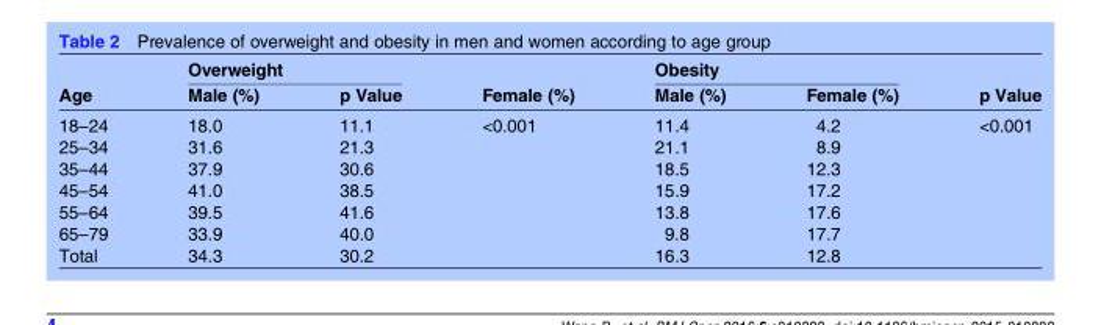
<table><thead><tr><td rowspan="2">Age</td><td colspan="2">Overweight</td><td rowspan="2">Female (%)</td><td colspan="2">Obesity</td><td rowspan="2">p Value</td></tr><tr><td>Male (%)</td><td>p Value</td><td>Male (%)</td><td>Female (%)</td></tr></thead><tbody><tr><td>18–24</td><td>18.0</td><td>11.1</td><td>&lt;0.001</td><td>11.4</td><td>4.2</td><td>&lt;0.001</td></tr><tr><td>25–34</td><td>31.6</td><td>21.3</td><td></td><td>21.1</td><td>8.9</td><td></td></tr><tr><td>35–44</td><td>37.9</td><td>30.6</td><td></td><td>18.5</td><td>12.3</td><td></td></tr><tr><td>45–54</td><td>41.0</td><td>38.5</td><td></td><td>15.9</td><td>17.2</td><td></td></tr><tr><td>55–64</td><td>39.5</td><td>41.6</td><td></td><td>13.8</td><td>17.6</td><td></td></tr><tr><td>65–79</td><td>33.9</td><td>40.0</td><td></td><td>9.8</td><td>17.7</td><td></td></tr><tr><td>Total</td><td>34.3</td><td>30.2</td><td></td><td>16.3</td><td>12.8</td><td></td></tr></tbody></table>